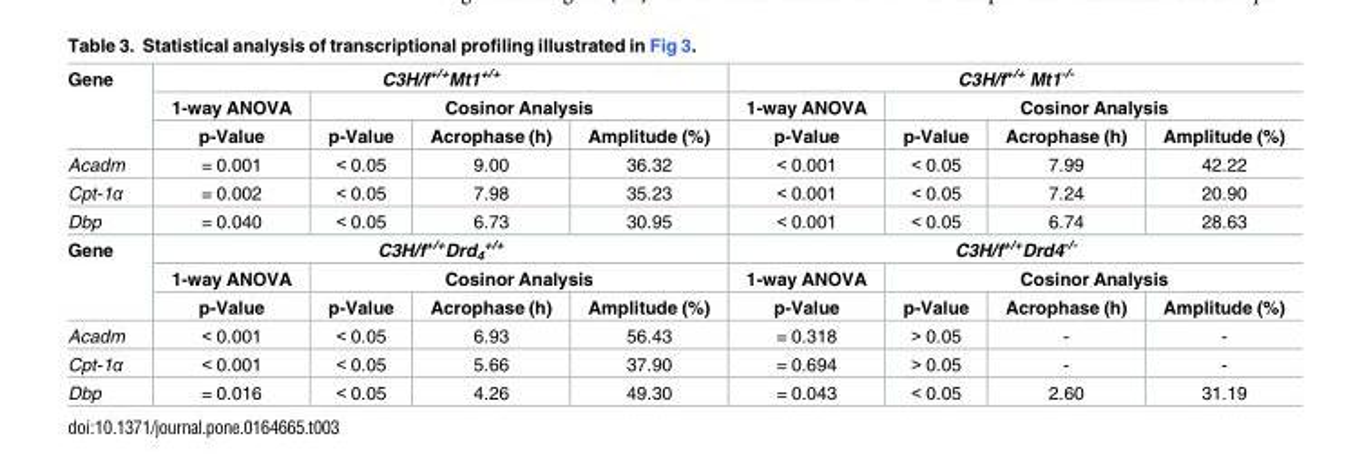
<table><tbody><tr><td rowspan="3">Gene</td><td colspan="4">C3H/f<sup>+/+</sup>Mt1<sup>+/+</sup></td><td colspan="4">C3H/f<sup>+/+</sup> Mt1<sup>-/-</sup></td></tr><tr><td>1-way ANOVA</td><td colspan="3">Cosinor Analysis</td><td>1-way ANOVA</td><td colspan="3">Cosinor Analysis</td></tr><tr><td>p-Value</td><td>p-Value</td><td>Acrophase (h)</td><td>Amplitude (%)</td><td>p-Value</td><td>p-Value</td><td>Acrophase (h)</td><td>Amplitude (%)</td></tr><tr><td>Acadm</td><td>= 0.001</td><td>&lt; 0.05</td><td>9.00</td><td>36.32</td><td>&lt; 0.001</td><td>&lt; 0.05</td><td>7.99</td><td>42.22</td></tr><tr><td>Cpt-1α</td><td>= 0.002</td><td>&lt; 0.05</td><td>7.98</td><td>35.23</td><td>&lt; 0.001</td><td>&lt; 0.05</td><td>7.24</td><td>20.90</td></tr><tr><td>Dbp</td><td>= 0.040</td><td>&lt; 0.05</td><td>6.73</td><td>30.95</td><td>&lt; 0.001</td><td>&lt; 0.05</td><td>6.74</td><td>28.63</td></tr><tr><td rowspan="3">Gene</td><td colspan="4">C3H/f<sup>+/+</sup>Drd<sub>4</sub> <sup>+/+</sup></td><td colspan="4">C3H/f<sup>+/+</sup>Drd4<sup>-/-</sup></td></tr><tr><td>1-way ANOVA</td><td colspan="3">Cosinor Analysis</td><td>1-way ANOVA</td><td colspan="3">Cosinor Analysis</td></tr><tr><td>p-Value</td><td>p-Value</td><td>Acrophase (h)</td><td>Amplitude (%)</td><td>p-Value</td><td>p-Value</td><td>Acrophase (h)</td><td>Amplitude (%)</td></tr><tr><td>Acadm</td><td>&lt; 0.001</td><td>&lt; 0.05</td><td>6.93</td><td>56.43</td><td>= 0.318</td><td>&gt; 0.05</td><td>-</td><td>-</td></tr><tr><td>Cpt-1α</td><td>&lt; 0.001</td><td>&lt; 0.05</td><td>5.66</td><td>37.90</td><td>= 0.694</td><td>&gt; 0.05</td><td>-</td><td>-</td></tr><tr><td>Dbp</td><td>= 0.016</td><td>&lt; 0.05</td><td>4.26</td><td>49.30</td><td>= 0.043</td><td>&lt; 0.05</td><td>2.60</td><td>31.19</td></tr></tbody></table>